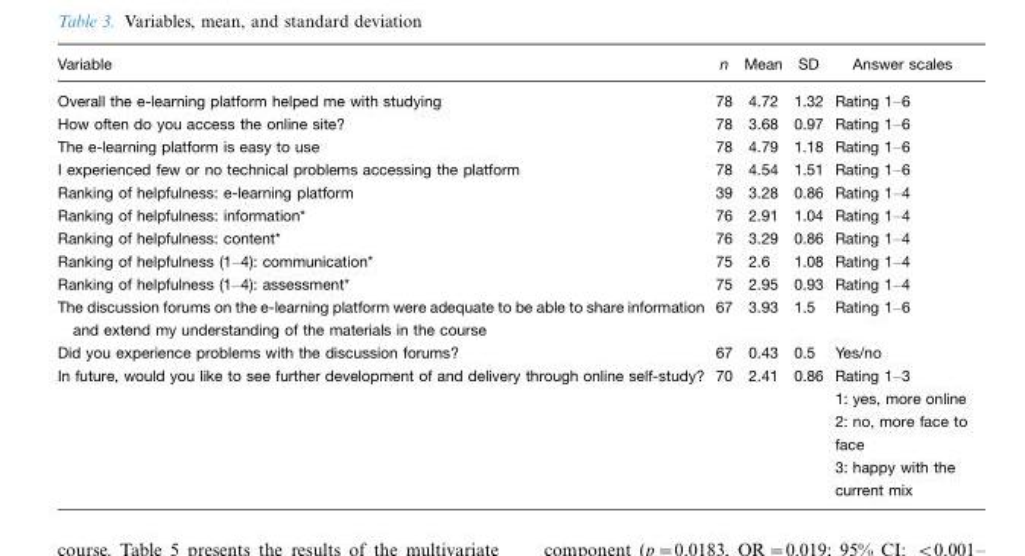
<table><thead><tr><td>Variable</td><td>n</td><td>Mean</td><td>SD</td><td>Answer scales</td></tr></thead><tbody><tr><td>Overall the e-learning platform helped me with studying</td><td>78</td><td>4.72</td><td>1.32</td><td>Rating 1–6</td></tr><tr><td>How often do you access the online site?</td><td>78</td><td>3.68</td><td>0.97</td><td>Rating 1–6</td></tr><tr><td>The e-learning platform is easy to use</td><td>78</td><td>4.79</td><td>1.18</td><td>Rating 1–6</td></tr><tr><td>I experienced few or no technical problems accessing the platform</td><td>78</td><td>4.54</td><td>1.51</td><td>Rating 1–6</td></tr><tr><td>Ranking of helpfulness: e-learning platform</td><td>39</td><td>3.28</td><td>0.86</td><td>Rating 1–4</td></tr><tr><td>Ranking of helpfulness: information*</td><td>76</td><td>2.91</td><td>1.04</td><td>Rating 1–4</td></tr><tr><td>Ranking of helpfulness: content*</td><td>76</td><td>3.29</td><td>0.86</td><td>Rating 1–4</td></tr><tr><td>Ranking of helpfulness (1–4): communication*</td><td>75</td><td>2.6</td><td>1.08</td><td>Rating 1–4</td></tr><tr><td>Ranking of helpfulness (1–4): assessment*</td><td>75</td><td>2.95</td><td>0.93</td><td>Rating 1–4</td></tr><tr><td>The discussion forums on the e-learning platform were adequate to be able to share information and extend my understanding of the materials in the course</td><td>67</td><td>3.93</td><td>1.5</td><td>Rating 1–6</td></tr><tr><td>Did you experience problems with the discussion forums?</td><td>67</td><td>0.43</td><td>0.5</td><td>Yes/no</td></tr><tr><td>In future, would you like to see further development of and delivery through online self-study?</td><td>70</td><td>2.41</td><td>0.86</td><td>Rating 1–3 1: yes, more online 2: no, more face to face 3: happy with the current mix</td></tr></tbody></table>